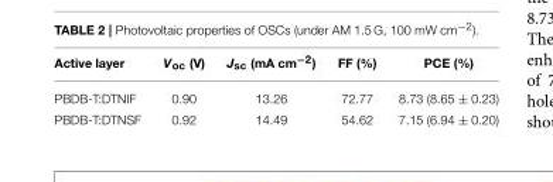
<table><thead><tr><td>Active layer</td><td>V<sub>oc</sub> (V)</td><td>J<sub>sc</sub> (mA cm<sup>−2</sup>)</td><td>FF (%)</td><td>PCE (%)</td></tr></thead><tbody><tr><td>PBDB-T:DTNIF</td><td>0.90</td><td>13.26</td><td>72.77</td><td>8.73 (8.65 ± 0.23)</td></tr><tr><td>PBDB-T:DTNSF</td><td>0.92</td><td>14.49</td><td>54.62</td><td>7.15 (6.94 ± 0.20)</td></tr></tbody></table>